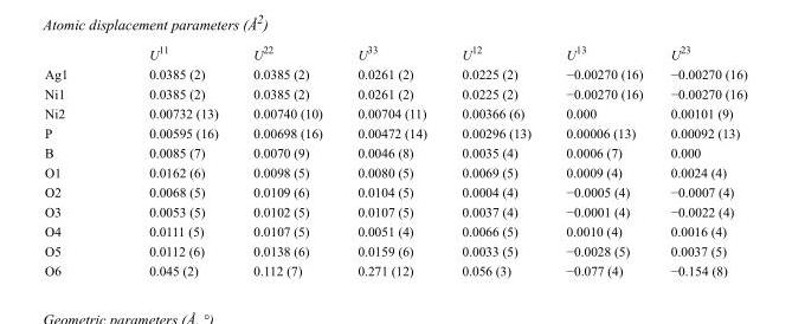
<table><thead><tr><td></td><td>U<sup>11</sup></td><td>U<sup>22</sup></td><td>U<sup>33</sup></td><td>U<sup>12</sup></td><td>U<sup>13</sup></td><td>U<sup>23</sup></td></tr></thead><tbody><tr><td>Ag1</td><td>0.0385 (2)</td><td>0.0385 (2)</td><td>0.0261 (2)</td><td>0.0225 (2)</td><td>−0.00270 (16)</td><td>−0.00270 (16)</td></tr><tr><td>Ni1</td><td>0.0385 (2)</td><td>0.0385 (2)</td><td>0.0261 (2)</td><td>0.0225 (2)</td><td>−0.00270 (16)</td><td>−0.00270 (16)</td></tr><tr><td>Ni2</td><td>0.00732 (13)</td><td>0.00740 (10)</td><td>0.00704 (11)</td><td>0.00366 (6)</td><td>0.000</td><td>0.00101 (9)</td></tr><tr><td>P</td><td>0.00595 (16)</td><td>0.00698 (16)</td><td>0.00472 (14)</td><td>0.00296 (13)</td><td>0.00006 (13)</td><td>0.00092 (13)</td></tr><tr><td>B</td><td>0.0085 (7)</td><td>0.0070 (9)</td><td>0.0046 (8)</td><td>0.0035 (4)</td><td>0.0006 (7)</td><td>0.000</td></tr><tr><td>O1</td><td>0.0162 (6)</td><td>0.0098 (5)</td><td>0.0080 (5)</td><td>0.0069 (5)</td><td>0.0009 (4)</td><td>0.0024 (4)</td></tr><tr><td>O2</td><td>0.0068 (5)</td><td>0.0109 (6)</td><td>0.0104 (5)</td><td>0.0004 (4)</td><td>−0.0005 (4)</td><td>−0.0007 (4)</td></tr><tr><td>O3</td><td>0.0053 (5)</td><td>0.0102 (5)</td><td>0.0107 (5)</td><td>0.0037 (4)</td><td>−0.0001 (4)</td><td>−0.0022 (4)</td></tr><tr><td>O4</td><td>0.0111 (5)</td><td>0.0107 (5)</td><td>0.0051 (4)</td><td>0.0066 (5)</td><td>0.0010 (4)</td><td>0.0016 (4)</td></tr><tr><td>O5</td><td>0.0112 (6)</td><td>0.0138 (6)</td><td>0.0159 (6)</td><td>0.0033 (5)</td><td>−0.0028 (5)</td><td>0.0037 (5)</td></tr><tr><td>O6</td><td>0.045 (2)</td><td>0.112 (7)</td><td>0.271 (12)</td><td>0.056 (3)</td><td>−0.077 (4)</td><td>−0.154 (8)</td></tr></tbody></table>